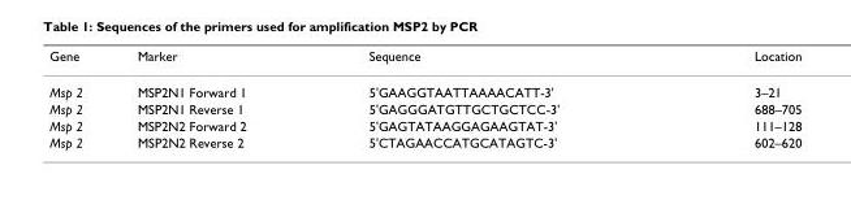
<table><thead><tr><td>Gene</td><td>Marker</td><td>Sequence</td><td>Location</td></tr></thead><tbody><tr><td>Msp 2</td><td>MSP2N1 Forward 1</td><td>5&#x27;GAAGGTAATTAAAACATT-3&#x27;</td><td>3–21</td></tr><tr><td>Msp 2</td><td>MSP2N1 Reverse 1</td><td>5&#x27;GAGGGATGTTGCTGCTCC-3&#x27;</td><td>688–705</td></tr><tr><td>Msp 2</td><td>MSP2N2 Forward 2</td><td>5&#x27;GAGTATAAGGAGAAGTAT-3&#x27;</td><td>111–128</td></tr><tr><td>Msp 2</td><td>MSP2N2 Reverse 2</td><td>5&#x27;CTAGAACCATGCATAGTC-3&#x27;</td><td>602–620</td></tr></tbody></table>